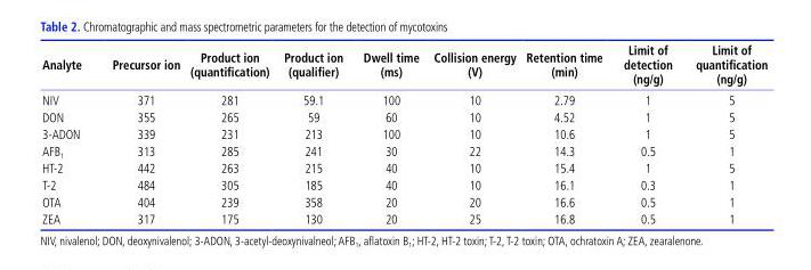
<table><thead><tr><td>Analyte</td><td>Precursor ion</td><td>Product ion (quantification)</td><td>Product ion (qualifier)</td><td>Dwell time (ms)</td><td>Collision energy (V)</td><td>Retention time (min)</td><td>Limit of detection (ng/g)</td><td>Limit of quantification (ng/g)</td></tr></thead><tbody><tr><td>NIV</td><td>371</td><td>281</td><td>59.1</td><td>100</td><td>10</td><td>2.79</td><td>1</td><td>5</td></tr><tr><td>DON</td><td>355</td><td>265</td><td>59</td><td>60</td><td>10</td><td>4.52</td><td>1</td><td>5</td></tr><tr><td>3-ADON</td><td>339</td><td>231</td><td>213</td><td>100</td><td>10</td><td>10.6</td><td>1</td><td>5</td></tr><tr><td>AFB<sub>1</sub></td><td>313</td><td>285</td><td>241</td><td>30</td><td>22</td><td>14.3</td><td>0.5</td><td>1</td></tr><tr><td>HT-2</td><td>442</td><td>263</td><td>215</td><td>40</td><td>10</td><td>15.4</td><td>1</td><td>5</td></tr><tr><td>T-2</td><td>484</td><td>305</td><td>185</td><td>40</td><td>10</td><td>16.1</td><td>0.3</td><td>1</td></tr><tr><td>OTA</td><td>404</td><td>239</td><td>358</td><td>20</td><td>20</td><td>16.6</td><td>0.5</td><td>1</td></tr><tr><td>ZEA</td><td>317</td><td>175</td><td>130</td><td>20</td><td>25</td><td>16.8</td><td>0.5</td><td>1</td></tr></tbody></table>